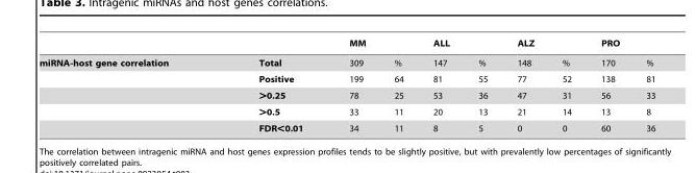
<table><thead><tr><td rowspan="2">miRNA-host gene correlation</td><td rowspan="2">Total</td><td colspan="2">MM</td><td colspan="2">ALL</td><td colspan="2">ALZ</td><td colspan="2">PRO</td></tr><tr><td>309</td><td>%</td><td>147</td><td>%</td><td>148</td><td>%</td><td>170</td><td>%</td></tr></thead><tbody><tr><td></td><td>Positive</td><td>199</td><td>64</td><td>81</td><td>55</td><td>77</td><td>52</td><td>138</td><td>81</td></tr><tr><td></td><td>&gt;0.25</td><td>78</td><td>25</td><td>53</td><td>36</td><td>47</td><td>31</td><td>56</td><td>33</td></tr><tr><td></td><td>&gt;0.5</td><td>33</td><td>11</td><td>20</td><td>13</td><td>21</td><td>14</td><td>13</td><td>8</td></tr><tr><td></td><td>FDR&lt;0.01</td><td>34</td><td>11</td><td>8</td><td>5</td><td>0</td><td>0</td><td>60</td><td>36</td></tr></tbody></table>